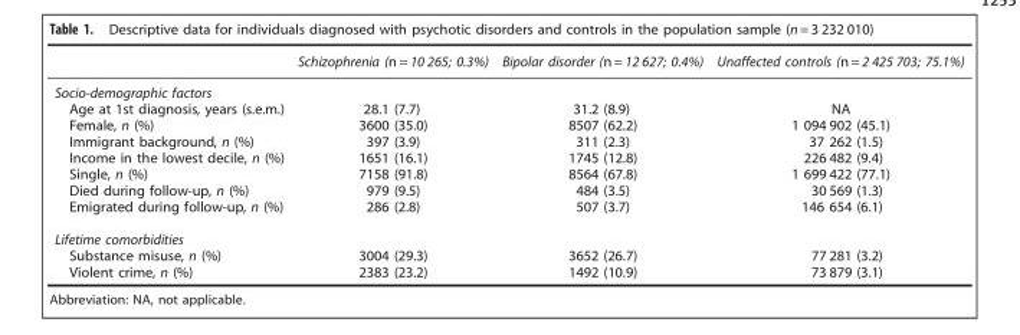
<table><thead><tr><td></td><td>Schizophrenia (n = 10 265; 0.3%)</td><td>Bipolar disorder (n = 12 627; 0.4%)</td><td>Unaffected controls (n = 2 425 703; 75.1%)</td></tr></thead><tbody><tr><td colspan="4">Socio-demographic factors</td></tr><tr><td>Age at 1st diagnosis, years (s.e.m.)</td><td>28.1 (7.7)</td><td>31.2 (8.9)</td><td>NA</td></tr><tr><td>Female, n (%)</td><td>3600 (35.0)</td><td>8507 (62.2)</td><td>1 094 902 (45.1)</td></tr><tr><td>Immigrant background, n (%)</td><td>397 (3.9)</td><td>311 (2.3)</td><td>37 262 (1.5)</td></tr><tr><td>Income in the lowest decile, n (%)</td><td>1651 (16.1)</td><td>1745 (12.8)</td><td>226 482 (9.4)</td></tr><tr><td>Single, n (%)</td><td>7158 (91.8)</td><td>8564 (67.8)</td><td>1 699 422 (77.1)</td></tr><tr><td>Died during follow-up, n (%)</td><td>979 (9.5)</td><td>484 (3.5)</td><td>30 569 (1.3)</td></tr><tr><td>Emigrated during follow-up, n (%)</td><td>286 (2.8)</td><td>507 (3.7)</td><td>146 654 (6.1)</td></tr><tr><td colspan="4">Lifetime comorbidities</td></tr><tr><td>Substance misuse, n (%)</td><td>3004 (29.3)</td><td>3652 (26.7)</td><td>77 281 (3.2)</td></tr><tr><td>Violent crime, n (%)</td><td>2383 (23.2)</td><td>1492 (10.9)</td><td>73 879 (3.1)</td></tr></tbody></table>